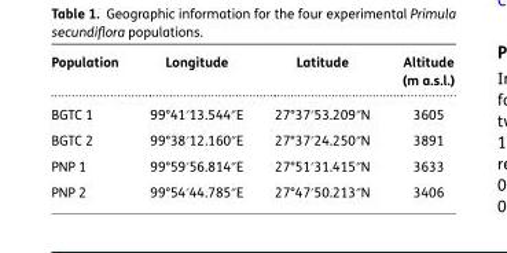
<table><thead><tr><td>Population</td><td>Longitude</td><td>Latitude</td><td>Altitude (m a.s.l.)</td></tr></thead><tbody><tr><td>BGTC 1</td><td>99°41′13.544″E</td><td>27°37′53.209″N</td><td>3605</td></tr><tr><td>BGTC 2</td><td>99°38′12.160″E</td><td>27°37′24.250″N</td><td>3891</td></tr><tr><td>PNP 1</td><td>99°59′56.814″E</td><td>27°51′31.415″N</td><td>3633</td></tr><tr><td>PNP 2</td><td>99°54′44.785″E</td><td>27°47′50.213″N</td><td>3406</td></tr></tbody></table>